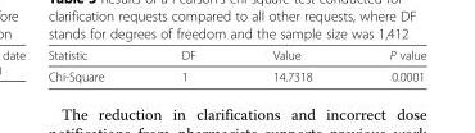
<table><thead><tr><td>Statistic</td><td>DF</td><td>Value</td><td>P value</td></tr></thead><tbody><tr><td>Chi-Square</td><td>1</td><td>14.7318</td><td>0.0001</td></tr></tbody></table>